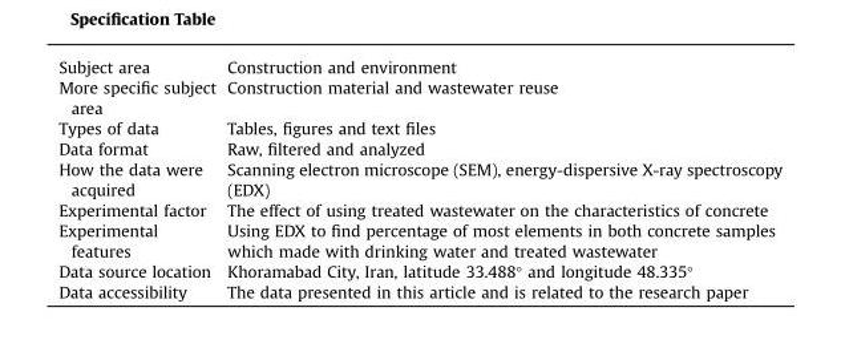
<table><tbody><tr><td>Subject area</td><td>Construction and environment</td></tr><tr><td>More specific subject area</td><td>Construction material and wastewater reuse</td></tr><tr><td>Types of data</td><td>Tables, figures and text files</td></tr><tr><td>Data format</td><td>Raw, filtered and analyzed</td></tr><tr><td>How the data were acquired</td><td>Scanning electron microscope (SEM), energy-dispersive X-ray spectroscopy (EDX)</td></tr><tr><td>Experimental factor</td><td>The effect of using treated wastewater on the characteristics of concrete</td></tr><tr><td>Experimental features</td><td>Using EDX to find percentage of most elements in both concrete samples which made with drinking water and treated wastewater</td></tr><tr><td>Data source location</td><td>Khoramabad City, Iran, latitude 33.488° and longitude 48.335°</td></tr><tr><td>Data accessibility</td><td>The data presented in this article and is related to the research paper</td></tr></tbody></table>